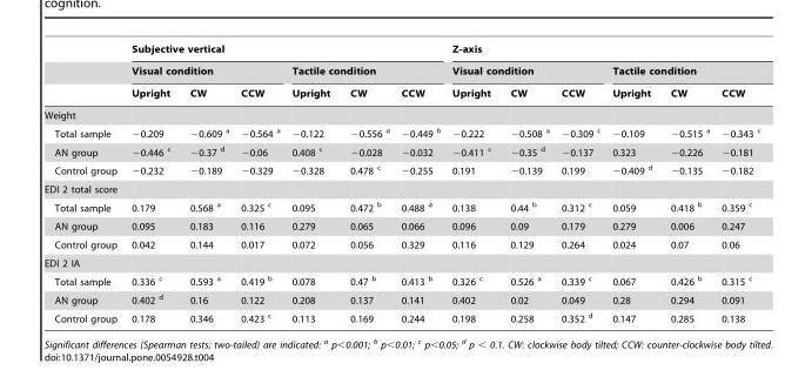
<table><thead><tr><td rowspan="3"></td><td colspan="6">Subjective vertical</td><td colspan="6">Z-axis</td></tr><tr><td colspan="3">Visual condition</td><td colspan="3">Tactile condition</td><td colspan="3">Visual condition</td><td colspan="3">Tactile condition</td></tr><tr><td>Upright</td><td>CW</td><td>CCW</td><td>Upright</td><td>CW</td><td>CCW</td><td>Upright</td><td>CW</td><td>CCW</td><td>Upright</td><td>CW</td><td>CCW</td></tr></thead><tbody><tr><td colspan="13">Weight</td></tr><tr><td>Total sample</td><td>−0.209</td><td>−0.609 <sup>a</sup></td><td>−0.564 <sup>a</sup></td><td>−0.122</td><td>−0.556 <sup>a</sup></td><td>−0.449 <sup>b</sup></td><td>−0.222</td><td>−0.508 <sup>a</sup></td><td>−0.309 <sup>c</sup></td><td>−0.109</td><td>−0.515 <sup>a</sup></td><td>−0.343 <sup>c</sup></td></tr><tr><td>AN group</td><td>−0.446 <sup>c</sup></td><td>−0.37 <sup>d</sup></td><td>−0.06</td><td>0.408 <sup>c</sup></td><td>−0.028</td><td>−0.032</td><td>−0.411 <sup>c</sup></td><td>−0.35 <sup>d</sup></td><td>−0.137</td><td>0.323</td><td>−0.226</td><td>−0.181</td></tr><tr><td>Control group</td><td>−0.232</td><td>−0.189</td><td>−0.329</td><td>−0.328</td><td>0.478 <sup>c</sup></td><td>−0.255</td><td>0.191</td><td>−0.139</td><td>0.199</td><td>−0.409 <sup>d</sup></td><td>−0.135</td><td>−0.182</td></tr><tr><td colspan="13">EDI 2 total score</td></tr><tr><td>Total sample</td><td>0.179</td><td>0.568 <sup>a</sup></td><td>0.325 <sup>c</sup></td><td>0.095</td><td>0.472 <sup>b</sup></td><td>0.488 <sup>a</sup></td><td>0.138</td><td>0.44 <sup>b</sup></td><td>0.312 <sup>c</sup></td><td>0.059</td><td>0.418 <sup>b</sup></td><td>0.359 <sup>c</sup></td></tr><tr><td>AN group</td><td>0.095</td><td>0.183</td><td>0.116</td><td>0.279</td><td>0.065</td><td>0.066</td><td>0.096</td><td>0.09</td><td>0.179</td><td>0.279</td><td>0.006</td><td>0.247</td></tr><tr><td>Control group</td><td>0.042</td><td>0.144</td><td>0.017</td><td>0.072</td><td>0.056</td><td>0.329</td><td>0.116</td><td>0.129</td><td>0.264</td><td>0.024</td><td>0.07</td><td>0.06</td></tr><tr><td colspan="13">EDI 2 IA</td></tr><tr><td>Total sample</td><td>0.336 <sup>c</sup></td><td>0.593 <sup>a</sup></td><td>0.419 <sup>b</sup></td><td>0.078</td><td>0.47 <sup>b</sup></td><td>0.413 <sup>b</sup></td><td>0.326 <sup>c</sup></td><td>0.526 <sup>a</sup></td><td>0.339 <sup>c</sup></td><td>0.067</td><td>0.426 <sup>b</sup></td><td>0.315 <sup>c</sup></td></tr><tr><td>AN group</td><td>0.402 <sup>d</sup></td><td>0.16</td><td>0.122</td><td>0.208</td><td>0.137</td><td>0.141</td><td>0.402</td><td>0.02</td><td>0.049</td><td>0.28</td><td>0.294</td><td>0.091</td></tr><tr><td>Control group</td><td>0.178</td><td>0.346</td><td>0.423 <sup>c</sup></td><td>0.113</td><td>0.169</td><td>0.244</td><td>0.198</td><td>0.258</td><td>0.352 <sup>d</sup></td><td>0.147</td><td>0.285</td><td>0.138</td></tr></tbody></table>